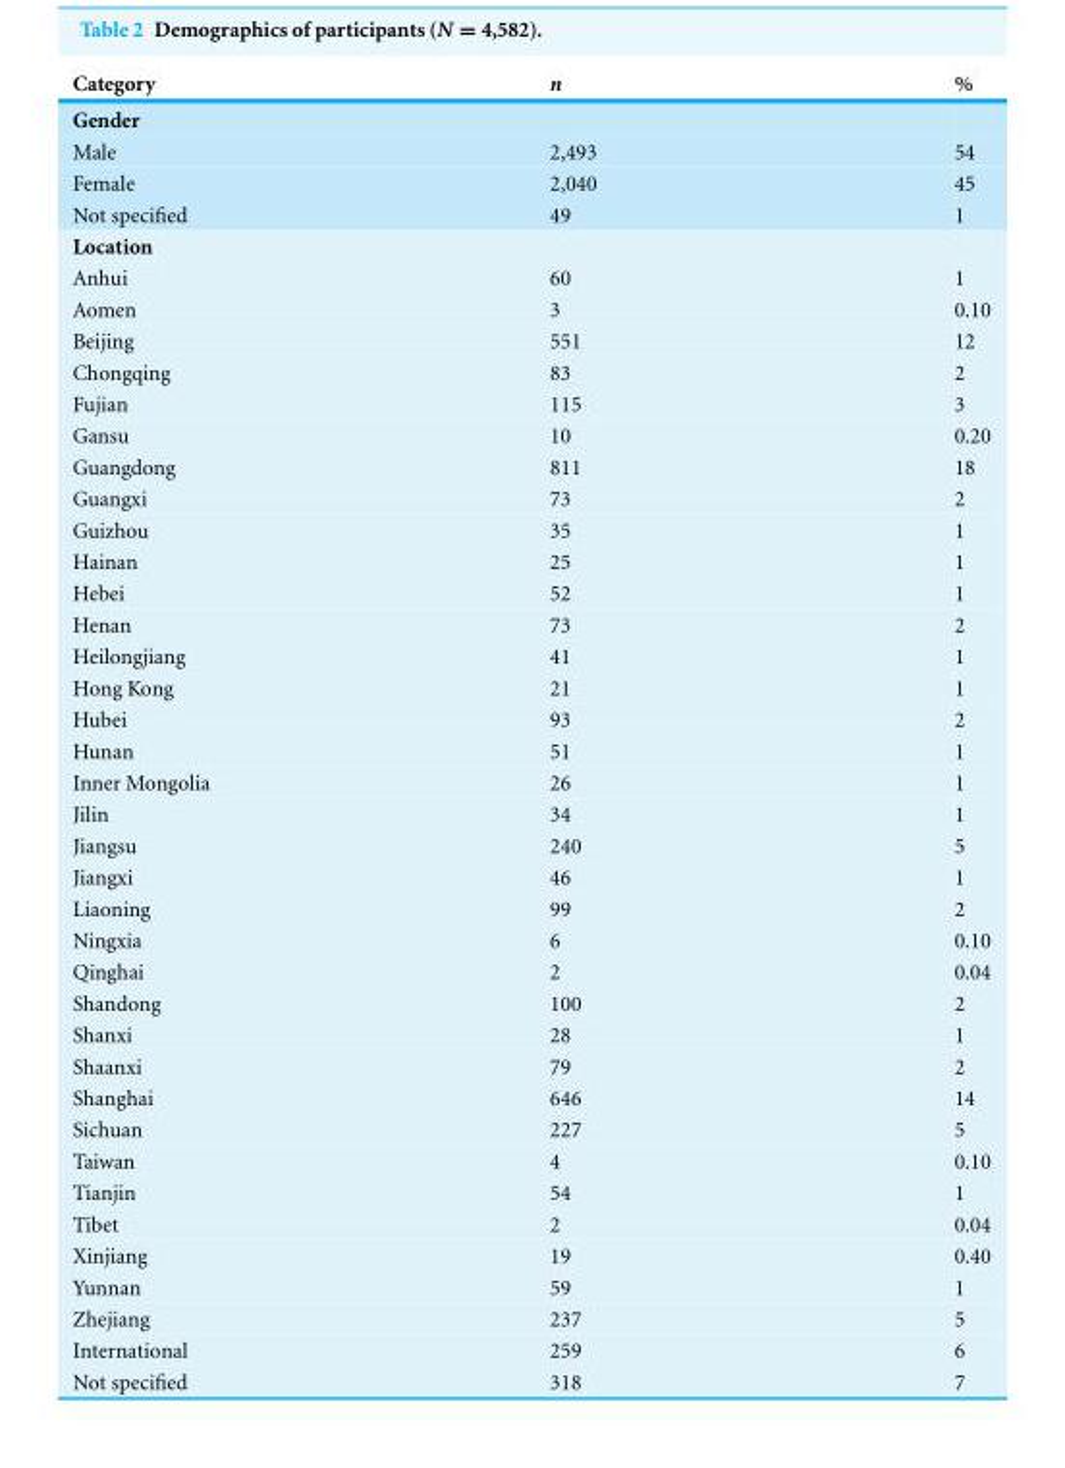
<table><thead><tr><td>Category</td><td>n</td><td>%</td></tr></thead><tbody><tr><td colspan="3">Gender</td></tr><tr><td>Male</td><td>2,493</td><td>54</td></tr><tr><td>Female</td><td>2,040</td><td>45</td></tr><tr><td>Not specified</td><td>49</td><td>1</td></tr><tr><td colspan="3">Location</td></tr><tr><td>Anhui</td><td>60</td><td>1</td></tr><tr><td>Aomen</td><td>3</td><td>0.10</td></tr><tr><td>Beijing</td><td>551</td><td>12</td></tr><tr><td>Chongqing</td><td>83</td><td>2</td></tr><tr><td>Fujian</td><td>115</td><td>3</td></tr><tr><td>Gansu</td><td>10</td><td>0.20</td></tr><tr><td>Guangdong</td><td>811</td><td>18</td></tr><tr><td>Guangxi</td><td>73</td><td>2</td></tr><tr><td>Guizhou</td><td>35</td><td>1</td></tr><tr><td>Hainan</td><td>25</td><td>1</td></tr><tr><td>Hebei</td><td>52</td><td>1</td></tr><tr><td>Henan</td><td>73</td><td>2</td></tr><tr><td>Heilongjiang</td><td>41</td><td>1</td></tr><tr><td>Hong Kong</td><td>21</td><td>1</td></tr><tr><td>Hubei</td><td>93</td><td>2</td></tr><tr><td>Hunan</td><td>51</td><td>1</td></tr><tr><td>Inner Mongolia</td><td>26</td><td>1</td></tr><tr><td>Jilin</td><td>34</td><td>1</td></tr><tr><td>Jiangsu</td><td>240</td><td>5</td></tr><tr><td>Jiangxi</td><td>46</td><td>1</td></tr><tr><td>Liaoning</td><td>99</td><td>2</td></tr><tr><td>Ningxia</td><td>6</td><td>0.10</td></tr><tr><td>Qinghai</td><td>2</td><td>0.04</td></tr><tr><td>Shandong</td><td>100</td><td>2</td></tr><tr><td>Shanxi</td><td>28</td><td>1</td></tr><tr><td>Shaanxi</td><td>79</td><td>2</td></tr><tr><td>Shanghai</td><td>646</td><td>14</td></tr><tr><td>Sichuan</td><td>227</td><td>5</td></tr><tr><td>Taiwan</td><td>4</td><td>0.10</td></tr><tr><td>Tianjin</td><td>54</td><td>1</td></tr><tr><td>Tibet</td><td>2</td><td>0.04</td></tr><tr><td>Xinjiang</td><td>19</td><td>0.40</td></tr><tr><td>Yunnan</td><td>59</td><td>1</td></tr><tr><td>Zhejiang</td><td>237</td><td>5</td></tr><tr><td>International</td><td>259</td><td>6</td></tr><tr><td>Not specified</td><td>318</td><td>7</td></tr></tbody></table>